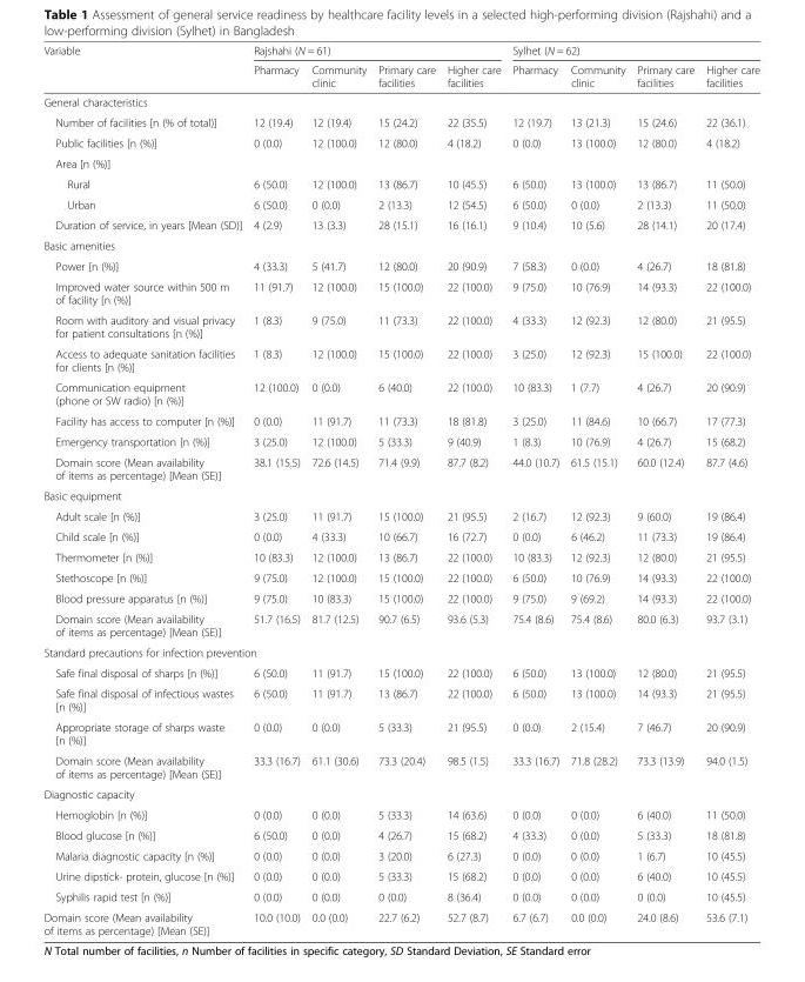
<table><thead><tr><td rowspan="2">Variable</td><td colspan="4">Rajshahi (N = 61)</td><td colspan="4">Sylhet (N = 62)</td></tr><tr><td>Pharmacy</td><td>Community clinic</td><td>Primary care facilities</td><td>Higher care facilities</td><td>Pharmacy</td><td>Community clinic</td><td>Primary care facilities</td><td>Higher care facilities</td></tr></thead><tbody><tr><td colspan="9">General characteristics</td></tr><tr><td>Number of facilities [n (% of total)]</td><td>12 (19.4)</td><td>12 (19.4)</td><td>15 (24.2)</td><td>22 (35.5)</td><td>12 (19.7)</td><td>13 (21.3)</td><td>15 (24.6)</td><td>22 (36.1)</td></tr><tr><td>Public facilities [n (%)]</td><td>0 (0.0)</td><td>12 (100.0)</td><td>12 (80.0)</td><td>4 (18.2)</td><td>0 (0.0)</td><td>13 (100.0)</td><td>12 (80.0)</td><td>4 (18.2)</td></tr><tr><td colspan="9">Area [n (%)]</td></tr><tr><td>Rural</td><td>6 (50.0)</td><td>12 (100.0)</td><td>13 (86.7)</td><td>10 (45.5)</td><td>6 (50.0)</td><td>13 (100.0)</td><td>13 (86.7)</td><td>11 (50.0)</td></tr><tr><td>Urban</td><td>6 (50.0)</td><td>0 (0.0)</td><td>2 (13.3)</td><td>12 (54.5)</td><td>6 (50.0)</td><td>0 (0.0)</td><td>2 (13.3)</td><td>11 (50.0)</td></tr><tr><td>Duration of service, in years [Mean (SD)]</td><td>4 (2.9)</td><td>13 (3.3)</td><td>28 (15.1)</td><td>16 (16.1)</td><td>9 (10.4)</td><td>10 (5.6)</td><td>28 (14.1)</td><td>20 (17.4)</td></tr><tr><td colspan="9">Basic amenities</td></tr><tr><td>Power [n (%)]</td><td>4 (33.3)</td><td>5 (41.7)</td><td>12 (80.0)</td><td>20 (90.9)</td><td>7 (58.3)</td><td>0 (0.0)</td><td>4 (26.7)</td><td>18 (81.8)</td></tr><tr><td>Improved water source within 500 m of facility [n (%)]</td><td>11 (91.7)</td><td>12 (100.0)</td><td>15 (100.0)</td><td>22 (100.0)</td><td>9 (75.0)</td><td>10 (76.9)</td><td>14 (93.3)</td><td>22 (100.0)</td></tr><tr><td>Room with auditory and visual privacy for patient consultations [n (%)]</td><td>1 (8.3)</td><td>9 (75.0)</td><td>11 (73.3)</td><td>22 (100.0)</td><td>4 (33.3)</td><td>12 (92.3)</td><td>12 (80.0)</td><td>21 (95.5)</td></tr><tr><td>Access to adequate sanitation facilities for clients [n (%)]</td><td>1 (8.3)</td><td>12 (100.0)</td><td>15 (100.0)</td><td>22 (100.0)</td><td>3 (25.0)</td><td>12 (92.3)</td><td>15 (100.0)</td><td>22 (100.0)</td></tr><tr><td>Communication equipment (phone or SW radio) [n (%)]</td><td>12 (100.0)</td><td>0 (0.0)</td><td>6 (40.0)</td><td>22 (100.0)</td><td>10 (83.3)</td><td>1 (7.7)</td><td>4 (26.7)</td><td>20 (90.9)</td></tr><tr><td>Facility has access to computer [n (%)]</td><td>0 (0.0)</td><td>11 (91.7)</td><td>11 (73.3)</td><td>18 (81.8)</td><td>3 (25.0)</td><td>11 (84.6)</td><td>10 (66.7)</td><td>17 (77.3)</td></tr><tr><td>Emergency transportation [n (%)]</td><td>3 (25.0)</td><td>12 (100.0)</td><td>5 (33.3)</td><td>9 (40.9)</td><td>1 (8.3)</td><td>10 (76.9)</td><td>4 (26.7)</td><td>15 (68.2)</td></tr><tr><td>Domain score (Mean availability of items as percentage) [Mean (SE)]</td><td>38.1 (15.5)</td><td>72.6 (14.5)</td><td>71.4 (9.9)</td><td>87.7 (8.2)</td><td>44.0 (10.7)</td><td>61.5 (15.1)</td><td>60.0 (12.4)</td><td>87.7 (4.6)</td></tr><tr><td colspan="9">Basic equipment</td></tr><tr><td>Adult scale [n (%)]</td><td>3 (25.0)</td><td>11 (91.7)</td><td>15 (100.0)</td><td>21 (95.5)</td><td>2 (16.7)</td><td>12 (92.3)</td><td>9 (60.0)</td><td>19 (86.4)</td></tr><tr><td>Child scale [n (%)]</td><td>0 (0.0)</td><td>4 (33.3)</td><td>10 (66.7)</td><td>16 (72.7)</td><td>0 (0.0)</td><td>6 (46.2)</td><td>11 (73.3)</td><td>19 (86.4)</td></tr><tr><td>Thermometer [n (%)]</td><td>10 (83.3)</td><td>12 (100.0)</td><td>13 (86.7)</td><td>22 (100.0)</td><td>10 (83.3)</td><td>12 (92.3)</td><td>12 (80.0)</td><td>21 (95.5)</td></tr><tr><td>Stethoscope [n (%)]</td><td>9 (75.0)</td><td>12 (100.0)</td><td>15 (100.0)</td><td>22 (100.0)</td><td>6 (50.0)</td><td>10 (76.9)</td><td>14 (93.3)</td><td>22 (100.0)</td></tr><tr><td>Blood pressure apparatus [n (%)]</td><td>9 (75.0)</td><td>10 (83.3)</td><td>15 (100.0)</td><td>22 (100.0)</td><td>9 (75.0)</td><td>9 (69.2)</td><td>14 (93.3)</td><td>22 (100.0)</td></tr><tr><td>Domain score (Mean availability of items as percentage) [Mean (SE)]</td><td>51.7 (16.5)</td><td>81.7 (12.5)</td><td>90.7 (6.5)</td><td>93.6 (5.3)</td><td>75.4 (8.6)</td><td>75.4 (8.6)</td><td>80.0 (6.3)</td><td>93.7 (3.1)</td></tr><tr><td colspan="9">Standard precautions for infection prevention</td></tr><tr><td>Safe final disposal of sharps [n (%)]</td><td>6 (50.0)</td><td>11 (91.7)</td><td>15 (100.0)</td><td>22 (100.0)</td><td>6 (50.0)</td><td>13 (100.0)</td><td>12 (80.0)</td><td>21 (95.5)</td></tr><tr><td>Safe final disposal of infectious wastes [n (%)]</td><td>6 (50.0)</td><td>11 (91.7)</td><td>13 (86.7)</td><td>22 (100.0)</td><td>6 (50.0)</td><td>13 (100.0)</td><td>14 (93.3)</td><td>21 (95.5)</td></tr><tr><td>Appropriate storage of sharps waste [n (%)]</td><td>0 (0.0)</td><td>0 (0.0)</td><td>5 (33.3)</td><td>21 (95.5)</td><td>0 (0.0)</td><td>2 (15.4)</td><td>7 (46.7)</td><td>20 (90.9)</td></tr><tr><td>Domain score (Mean availability of items as percentage) [Mean (SE)]</td><td>33.3 (16.7)</td><td>61.1 (30.6)</td><td>73.3 (20.4)</td><td>98.5 (1.5)</td><td>33.3 (16.7)</td><td>71.8 (28.2)</td><td>73.3 (13.9)</td><td>94.0 (1.5)</td></tr><tr><td colspan="9">Diagnostic capacity</td></tr><tr><td>Hemoglobin [n (%)]</td><td>0 (0.0)</td><td>0 (0.0)</td><td>5 (33.3)</td><td>14 (63.6)</td><td>0 (0.0)</td><td>0 (0.0)</td><td>6 (40.0)</td><td>11 (50.0)</td></tr><tr><td>Blood glucose [n (%)]</td><td>6 (50.0)</td><td>0 (0.0)</td><td>4 (26.7)</td><td>15 (68.2)</td><td>4 (33.3)</td><td>0 (0.0)</td><td>5 (33.3)</td><td>18 (81.8)</td></tr><tr><td>Malaria diagnostic capacity [n (%)]</td><td>0 (0.0)</td><td>0 (0.0)</td><td>3 (20.0)</td><td>6 (27.3)</td><td>0 (0.0)</td><td>0 (0.0)</td><td>1 (6.7)</td><td>10 (45.5)</td></tr><tr><td>Urine dipstick- protein, glucose [n (%)]</td><td>0 (0.0)</td><td>0 (0.0)</td><td>5 (33.3)</td><td>15 (68.2)</td><td>0 (0.0)</td><td>0 (0.0)</td><td>6 (40.0)</td><td>10 (45.5)</td></tr><tr><td>Syphilis rapid test [n (%)]</td><td>0 (0.0)</td><td>0 (0.0)</td><td>0 (0.0)</td><td>8 (36.4)</td><td>0 (0.0)</td><td>0 (0.0)</td><td>0 (0.0)</td><td>10 (45.5)</td></tr><tr><td>Domain score (Mean availability of items as percentage) [Mean (SE)]</td><td>10.0 (10.0)</td><td>0.0 (0.0)</td><td>22.7 (6.2)</td><td>52.7 (8.7)</td><td>6.7 (6.7)</td><td>0.0 (0.0)</td><td>24.0 (8.6)</td><td>53.6 (7.1)</td></tr></tbody></table>